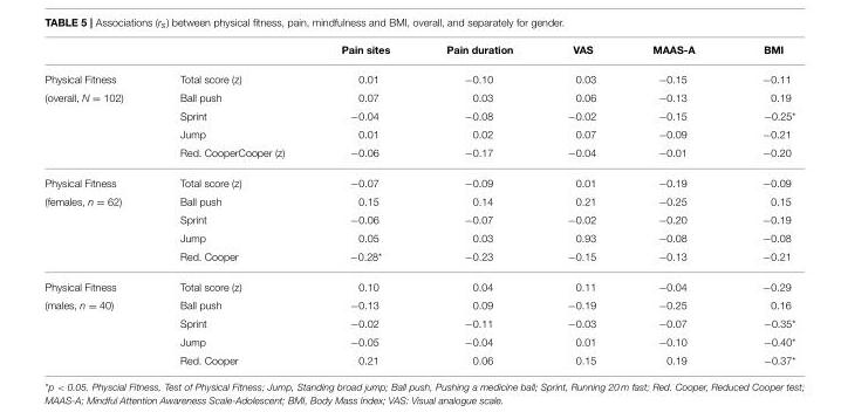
<table><thead><tr><td></td><td></td><td>Pain sites</td><td>Pain duration</td><td>VAS</td><td>MAAS-A</td><td>BMI</td></tr></thead><tbody><tr><td>Physical Fitness</td><td>Total score (z)</td><td>0.01</td><td>−0.10</td><td>0.03</td><td>−0.15</td><td>−0.11</td></tr><tr><td rowspan="4">(overall, N = 102)</td><td>Ball push</td><td>0.07</td><td>0.03</td><td>0.06</td><td>−0.13</td><td>0.19</td></tr><tr><td>Sprint</td><td>−0.04</td><td>−0.08</td><td>−0.02</td><td>−0.15</td><td>−0.25*</td></tr><tr><td>Jump</td><td>0.01</td><td>0.02</td><td>0.07</td><td>−0.09</td><td>−0.21</td></tr><tr><td>Red. CooperCooper (z)</td><td>−0.06</td><td>−0.17</td><td>−0.04</td><td>−0.01</td><td>−0.20</td></tr><tr><td>Physical Fitness</td><td>Total score (z)</td><td>−0.07</td><td>−0.09</td><td>0.01</td><td>−0.19</td><td>−0.09</td></tr><tr><td rowspan="4">(females, n = 62)</td><td>Ball push</td><td>0.15</td><td>0.14</td><td>0.21</td><td>−0.25</td><td>0.15</td></tr><tr><td>Sprint</td><td>−0.06</td><td>−0.07</td><td>−0.02</td><td>−0.20</td><td>−0.19</td></tr><tr><td>Jump</td><td>0.05</td><td>0.03</td><td>0.93</td><td>−0.08</td><td>−0.08</td></tr><tr><td>Red. Cooper</td><td>−0.28*</td><td>−0.23</td><td>−0.15</td><td>−0.13</td><td>−0.21</td></tr><tr><td>Physical Fitness</td><td>Total score (z)</td><td>0.10</td><td>0.04</td><td>0.11</td><td>−0.04</td><td>−0.29</td></tr><tr><td rowspan="4">(males, n = 40)</td><td>Ball push</td><td>−0.13</td><td>0.09</td><td>−0.19</td><td>−0.25</td><td>0.16</td></tr><tr><td>Sprint</td><td>−0.02</td><td>−0.11</td><td>−0.03</td><td>−0.07</td><td>−0.35*</td></tr><tr><td>Jump</td><td>−0.05</td><td>−0.04</td><td>0.01</td><td>−0.10</td><td>−0.40*</td></tr><tr><td>Red. Cooper</td><td>0.21</td><td>0.06</td><td>0.15</td><td>0.19</td><td>−0.37*</td></tr></tbody></table>